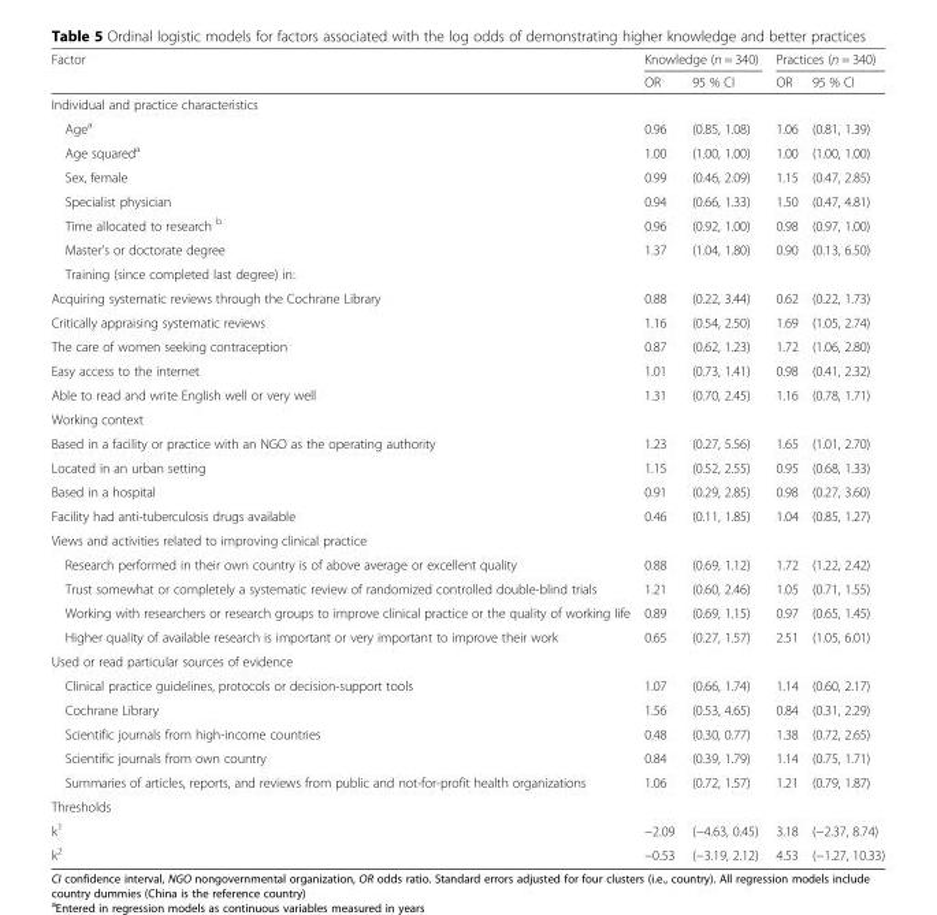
<table><thead><tr><td rowspan="2">Factor</td><td colspan="2">Knowledge (n = 340)</td><td colspan="2">Practices (n = 340)</td></tr><tr><td>OR</td><td>95 % CI</td><td>OR</td><td>95 % CI</td></tr></thead><tbody><tr><td colspan="5">Individual and practice characteristics</td></tr><tr><td>Age<sup>a</sup></td><td>0.96</td><td>(0.85, 1.08)</td><td>1.06</td><td>(0.81, 1.39)</td></tr><tr><td>Age squared<sup>a</sup></td><td>1.00</td><td>(1.00, 1.00)</td><td>1.00</td><td>(1.00, 1.00)</td></tr><tr><td>Sex, female</td><td>0.99</td><td>(0.46, 2.09)</td><td>1.15</td><td>(0.47, 2.85)</td></tr><tr><td>Specialist physician</td><td>0.94</td><td>(0.66, 1.33)</td><td>1.50</td><td>(0.47, 4.81)</td></tr><tr><td>Time allocated to research <sup>b</sup></td><td>0.96</td><td>(0.92, 1.00)</td><td>0.98</td><td>(0.97, 1.00)</td></tr><tr><td>Master’s or doctorate degree</td><td>1.37</td><td>(1.04, 1.80)</td><td>0.90</td><td>(0.13, 6.50)</td></tr><tr><td colspan="5">Training (since completed last degree) in:</td></tr><tr><td>Acquiring systematic reviews through the Cochrane Library</td><td>0.88</td><td>(0.22, 3.44)</td><td>0.62</td><td>(0.22, 1.73)</td></tr><tr><td>Critically appraising systematic reviews</td><td>1.16</td><td>(0.54, 2.50)</td><td>1.69</td><td>(1.05, 2.74)</td></tr><tr><td>The care of women seeking contraception</td><td>0.87</td><td>(0.62, 1.23)</td><td>1.72</td><td>(1.06, 2.80)</td></tr><tr><td>Easy access to the internet</td><td>1.01</td><td>(0.73, 1.41)</td><td>0.98</td><td>(0.41, 2.32)</td></tr><tr><td>Able to read and write English well or very well</td><td>1.31</td><td>(0.70, 2.45)</td><td>1.16</td><td>(0.78, 1.71)</td></tr><tr><td colspan="5">Working context</td></tr><tr><td>Based in a facility or practice with an NGO as the operating authority</td><td>1.23</td><td>(0.27, 5.56)</td><td>1.65</td><td>(1.01, 2.70)</td></tr><tr><td>Located in an urban setting</td><td>1.15</td><td>(0.52, 2.55)</td><td>0.95</td><td>(0.68, 1.33)</td></tr><tr><td>Based in a hospital</td><td>0.91</td><td>(0.29, 2.85)</td><td>0.98</td><td>(0.27, 3.60)</td></tr><tr><td>Facility had anti-tuberculosis drugs available</td><td>0.46</td><td>(0.11, 1.85)</td><td>1.04</td><td>(0.85, 1.27)</td></tr><tr><td colspan="5">Views and activities related to improving clinical practice</td></tr><tr><td>Research performed in their own country is of above average or excellent quality</td><td>0.88</td><td>(0.69, 1.12)</td><td>1.72</td><td>(1.22, 2.42)</td></tr><tr><td>Trust somewhat or completely a systematic review of randomized controlled double-blind trials</td><td>1.21</td><td>(0.60, 2.46)</td><td>1.05</td><td>(0.71, 1.55)</td></tr><tr><td>Working with researchers or research groups to improve clinical practice or the quality of working life</td><td>0.89</td><td>(0.69, 1.15)</td><td>0.97</td><td>(0.65, 1.45)</td></tr><tr><td>Higher quality of available research is important or very important to improve their work</td><td>0.65</td><td>(0.27, 1.57)</td><td>2.51</td><td>(1.05, 6.01)</td></tr><tr><td colspan="5">Used or read particular sources of evidence</td></tr><tr><td>Clinical practice guidelines, protocols or decision-support tools</td><td>1.07</td><td>(0.66, 1.74)</td><td>1.14</td><td>(0.60, 2.17)</td></tr><tr><td>Cochrane Library</td><td>1.56</td><td>(0.53, 4.65)</td><td>0.84</td><td>(0.31, 2.29)</td></tr><tr><td>Scientific journals from high-income countries</td><td>0.48</td><td>(0.30, 0.77)</td><td>1.38</td><td>(0.72, 2.65)</td></tr><tr><td>Scientific journals from own country</td><td>0.84</td><td>(0.39, 1.79)</td><td>1.14</td><td>(0.75, 1.71)</td></tr><tr><td>Summaries of articles, reports, and reviews from public and not-for-profit health organizations</td><td>1.06</td><td>(0.72, 1.57)</td><td>1.21</td><td>(0.79, 1.87)</td></tr><tr><td colspan="5">Thresholds</td></tr><tr><td>k<sup>1</sup></td><td>−2.09</td><td>(−4.63, 0.45)</td><td>3.18</td><td>(−2.37, 8.74)</td></tr><tr><td>k<sup>2</sup></td><td>−0.53</td><td>(−3.19, 2.12)</td><td>4.53</td><td>(−1.27, 10.33)</td></tr></tbody></table>